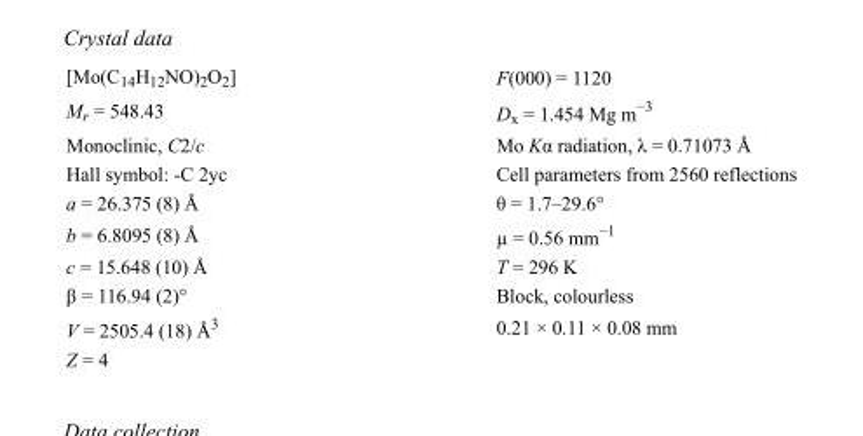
<table><tbody><tr><td>[Mo(C<sub>14</sub>H<sub>12</sub>NO)<sub>2</sub>O<sub>2</sub>]</td><td>F(000) = 1120</td></tr><tr><td>M<sub>r</sub> = 548.43</td><td>D<sub>x</sub> = 1.454 Mg m<sup>−3</sup></td></tr><tr><td>Monoclinic, C2/c</td><td>Mo Kα radiation, λ = 0.71073 Å</td></tr><tr><td>Hall symbol: -C 2yc</td><td>Cell parameters from 2560 reflections</td></tr><tr><td>a = 26.375 (8) Å</td><td>θ = 1.7–29.6°</td></tr><tr><td>b = 6.8095 (8) Å</td><td>µ = 0.56 mm<sup>−1</sup></td></tr><tr><td>c = 15.648 (10) Å</td><td>T = 296 K</td></tr><tr><td>β = 116.94 (2)°</td><td>Block, colourless</td></tr><tr><td>V = 2505.4 (18) Å<sup>3</sup></td><td>0.21 × 0.11 × 0.08 mm</td></tr><tr><td>Z = 4</td><td></td></tr></tbody></table>